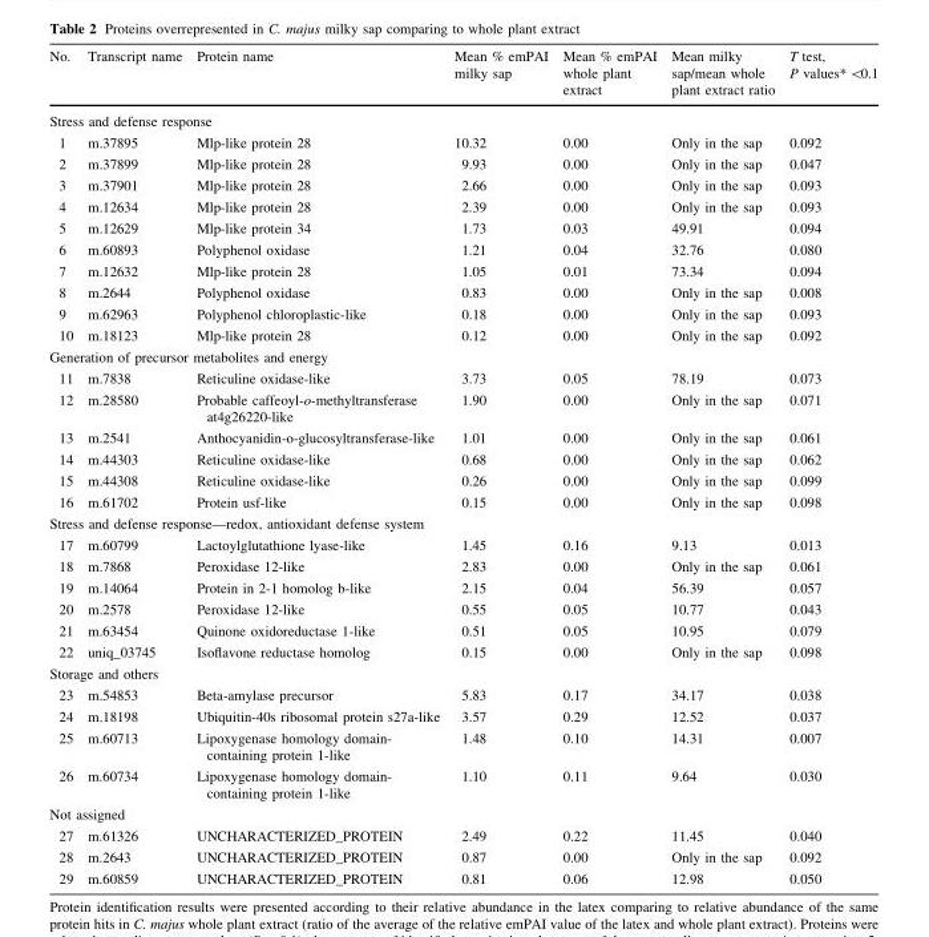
<table><thead><tr><td>No.</td><td>Transcript name</td><td>Protein name</td><td>Mean % emPAI milky sap</td><td>Mean % emPAI whole plant extract</td><td>Mean milky sap/mean whole plant extract ratio</td><td>T test, P values* &lt;0.1</td></tr></thead><tbody><tr><td colspan="7">Stress and defense response</td></tr><tr><td>1</td><td>m.37895</td><td>Mlp-like protein 28</td><td>10.32</td><td>0.00</td><td>Only in the sap</td><td>0.092</td></tr><tr><td>2</td><td>m.37899</td><td>Mlp-like protein 28</td><td>9.93</td><td>0.00</td><td>Only in the sap</td><td>0.047</td></tr><tr><td>3</td><td>m.37901</td><td>Mlp-like protein 28</td><td>2.66</td><td>0.00</td><td>Only in the sap</td><td>0.093</td></tr><tr><td>4</td><td>m.12634</td><td>Mlp-like protein 28</td><td>2.39</td><td>0.00</td><td>Only in the sap</td><td>0.093</td></tr><tr><td>5</td><td>m.12629</td><td>Mlp-like protein 34</td><td>1.73</td><td>0.03</td><td>49.91</td><td>0.094</td></tr><tr><td>6</td><td>m.60893</td><td>Polyphenol oxidase</td><td>1.21</td><td>0.04</td><td>32.76</td><td>0.080</td></tr><tr><td>7</td><td>m.12632</td><td>Mlp-like protein 28</td><td>1.05</td><td>0.01</td><td>73.34</td><td>0.094</td></tr><tr><td>8</td><td>m.2644</td><td>Polyphenol oxidase</td><td>0.83</td><td>0.00</td><td>Only in the sap</td><td>0.008</td></tr><tr><td>9</td><td>m.62963</td><td>Polyphenol chloroplastic-like</td><td>0.18</td><td>0.00</td><td>Only in the sap</td><td>0.093</td></tr><tr><td>10</td><td>m.18123</td><td>Mlp-like protein 28</td><td>0.12</td><td>0.00</td><td>Only in the sap</td><td>0.092</td></tr><tr><td colspan="7">Generation of precursor metabolites and energy</td></tr><tr><td>11</td><td>m.7838</td><td>Reticuline oxidase-like</td><td>3.73</td><td>0.05</td><td>78.19</td><td>0.073</td></tr><tr><td>12</td><td>m.28580</td><td>Probable caffeoyl-o-methyltransferase at4g26220-like</td><td>1.90</td><td>0.00</td><td>Only in the sap</td><td>0.071</td></tr><tr><td>13</td><td>m.2541</td><td>Anthocyanidin-o-glucosyltransferase-like</td><td>1.01</td><td>0.00</td><td>Only in the sap</td><td>0.061</td></tr><tr><td>14</td><td>m.44303</td><td>Reticuline oxidase-like</td><td>0.68</td><td>0.00</td><td>Only in the sap</td><td>0.062</td></tr><tr><td>15</td><td>m.44308</td><td>Reticuline oxidase-like</td><td>0.26</td><td>0.00</td><td>Only in the sap</td><td>0.099</td></tr><tr><td>16</td><td>m.61702</td><td>Protein usf-like</td><td>0.15</td><td>0.00</td><td>Only in the sap</td><td>0.098</td></tr><tr><td colspan="7">Stress and defense response—redox, antioxidant defense system</td></tr><tr><td>17</td><td>m.60799</td><td>Lactoylglutathione lyase-like</td><td>1.45</td><td>0.16</td><td>9.13</td><td>0.013</td></tr><tr><td>18</td><td>m.7868</td><td>Peroxidase 12-like</td><td>2.83</td><td>0.00</td><td>Only in the sap</td><td>0.061</td></tr><tr><td>19</td><td>m.14064</td><td>Protein in 2-1 homolog b-like</td><td>2.15</td><td>0.04</td><td>56.39</td><td>0.057</td></tr><tr><td>20</td><td>m.2578</td><td>Peroxidase 12-like</td><td>0.55</td><td>0.05</td><td>10.77</td><td>0.043</td></tr><tr><td>21</td><td>m.63454</td><td>Quinone oxidoreductase 1-like</td><td>0.51</td><td>0.05</td><td>10.95</td><td>0.079</td></tr><tr><td>22</td><td>uniq_03745</td><td>Isoflavone reductase homolog</td><td>0.15</td><td>0.00</td><td>Only in the sap</td><td>0.098</td></tr><tr><td colspan="7">Storage and others</td></tr><tr><td>23</td><td>m.54853</td><td>Beta-amylase precursor</td><td>5.83</td><td>0.17</td><td>34.17</td><td>0.038</td></tr><tr><td>24</td><td>m.18198</td><td>Ubiquitin-40s ribosomal protein s27a-like</td><td>3.57</td><td>0.29</td><td>12.52</td><td>0.037</td></tr><tr><td>25</td><td>m.60713</td><td>Lipoxygenase homology domain- containing protein 1-like</td><td>1.48</td><td>0.10</td><td>14.31</td><td>0.007</td></tr><tr><td>26</td><td>m.60734</td><td>Lipoxygenase homology domain- containing protein 1-like</td><td>1.10</td><td>0.11</td><td>9.64</td><td>0.030</td></tr><tr><td colspan="7">Not assigned</td></tr><tr><td>27</td><td>m.61326</td><td>UNCHARACTERIZED_PROTEIN</td><td>2.49</td><td>0.22</td><td>11.45</td><td>0.040</td></tr><tr><td>28</td><td>m.2643</td><td>UNCHARACTERIZED_PROTEIN</td><td>0.87</td><td>0.00</td><td>Only in the sap</td><td>0.092</td></tr><tr><td>29</td><td>m.60859</td><td>UNCHARACTERIZED_PROTEIN</td><td>0.81</td><td>0.06</td><td>12.98</td><td>0.050</td></tr></tbody></table>